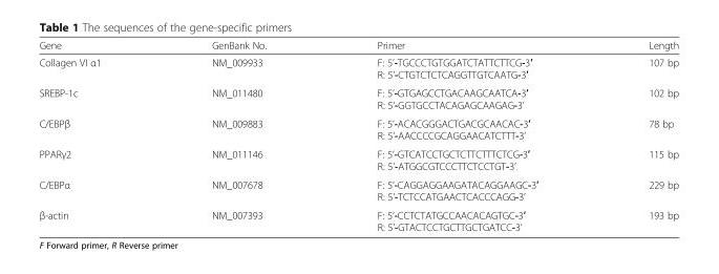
<table><thead><tr><td>Gene</td><td>GenBank No.</td><td>Primer</td><td>Length</td></tr></thead><tbody><tr><td>Collagen VI α1</td><td>NM_009933</td><td>F: 5’-TGCCCTGTGGATCTATTCTTCG-3′ R: 5’-CTGTCTCTCAGGTTGTCAATG-3′</td><td>107 bp</td></tr><tr><td>SREBP-1c</td><td>NM_011480</td><td>F: 5’-GTGAGCCTGACAAGCAATCA-3′ R: 5’-GGTGCCTACAGAGCAAGAG-3’</td><td>102 bp</td></tr><tr><td>C/EBPβ</td><td>NM_009883</td><td>F: 5’-ACACGGGACTGACGCAACAC-3′ R: 5’-AACCCCGCAGGAACATCTTT-3’</td><td>78 bp</td></tr><tr><td>PPARγ2</td><td>NM_011146</td><td>F: 5’-GTCATCCTGCTCTTCTTTCTCG-3′ R: 5’-ATGGCGTCCCTTCTCCTGT-3’</td><td>115 bp</td></tr><tr><td>C/EBPα</td><td>NM_007678</td><td>F: 5’-CAGGAGGAAGATACAGGAAGC-3′ R: 5’-TCTCCATGAACTCACCCAGG-3’</td><td>229 bp</td></tr><tr><td>β-actin</td><td>NM_007393</td><td>F: 5’-CCTCTATGCCAACACAGTGC-3′ R: 5’-GTACTCCTGCTTGCTGATCC-3’</td><td>193 bp</td></tr></tbody></table>